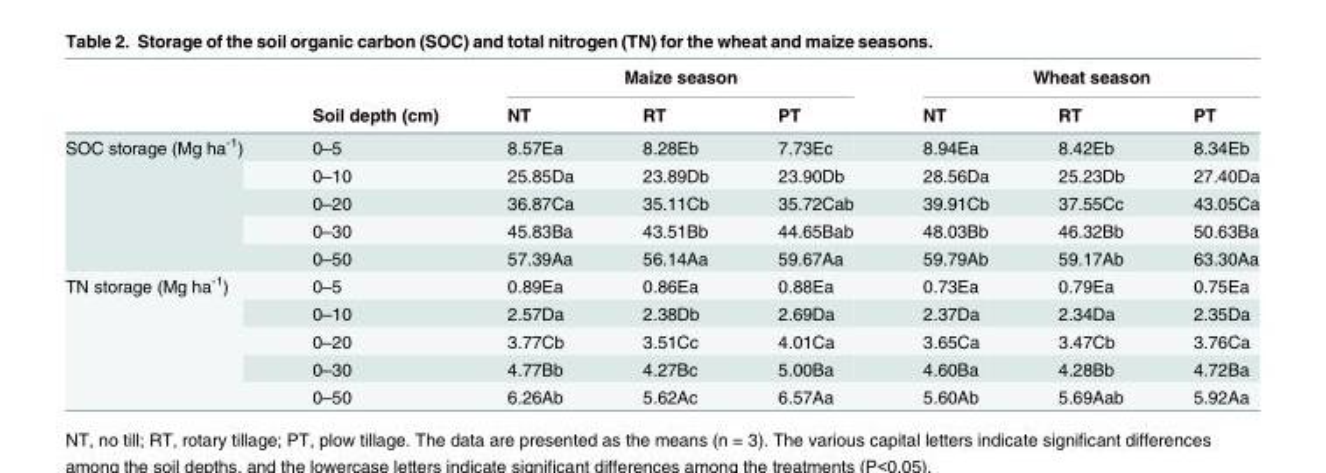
<table><thead><tr><td rowspan="2"></td><td rowspan="2">Soil depth (cm)</td><td colspan="3">Maize season</td><td colspan="3">Wheat season</td></tr><tr><td>NT</td><td>RT</td><td>PT</td><td>NT</td><td>RT</td><td>PT</td></tr></thead><tbody><tr><td rowspan="5">SOC storage (Mg ha<sup>-1</sup>)</td><td>0–5</td><td>8.57Ea</td><td>8.28Eb</td><td>7.73Ec</td><td>8.94Ea</td><td>8.42Eb</td><td>8.34Eb</td></tr><tr><td>0–10</td><td>25.85Da</td><td>23.89Db</td><td>23.90Db</td><td>28.56Da</td><td>25.23Db</td><td>27.40Da</td></tr><tr><td>0–20</td><td>36.87Ca</td><td>35.11Cb</td><td>35.72Cab</td><td>39.91Cb</td><td>37.55Cc</td><td>43.05Ca</td></tr><tr><td>0–30</td><td>45.83Ba</td><td>43.51Bb</td><td>44.65Bab</td><td>48.03Bb</td><td>46.32Bb</td><td>50.63Ba</td></tr><tr><td>0–50</td><td>57.39Aa</td><td>56.14Aa</td><td>59.67Aa</td><td>59.79Ab</td><td>59.17Ab</td><td>63.30Aa</td></tr><tr><td rowspan="5">TN storage (Mg ha<sup>-1</sup>)</td><td>0–5</td><td>0.89Ea</td><td>0.86Ea</td><td>0.88Ea</td><td>0.73Ea</td><td>0.79Ea</td><td>0.75Ea</td></tr><tr><td>0–10</td><td>2.57Da</td><td>2.38Db</td><td>2.69Da</td><td>2.37Da</td><td>2.34Da</td><td>2.35Da</td></tr><tr><td>0–20</td><td>3.77Cb</td><td>3.51Cc</td><td>4.01Ca</td><td>3.65Ca</td><td>3.47Cb</td><td>3.76Ca</td></tr><tr><td>0–30</td><td>4.77Bb</td><td>4.27Bc</td><td>5.00Ba</td><td>4.60Ba</td><td>4.28Bb</td><td>4.72Ba</td></tr><tr><td>0–50</td><td>6.26Ab</td><td>5.62Ac</td><td>6.57Aa</td><td>5.60Ab</td><td>5.69Aab</td><td>5.92Aa</td></tr></tbody></table>